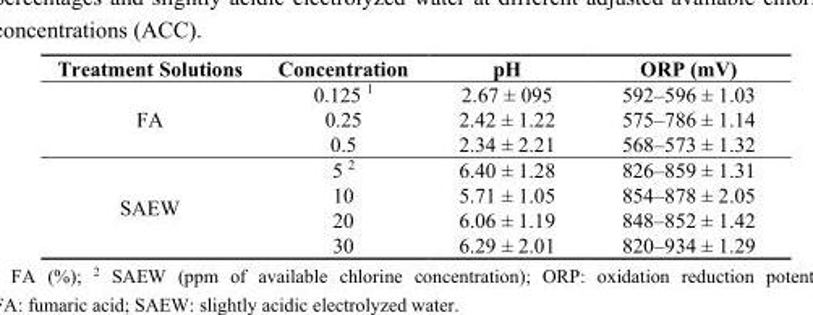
<table><thead><tr><td>Treatment Solutions</td><td>Concentration</td><td>pH</td><td>ORP (mV)</td></tr></thead><tbody><tr><td rowspan="3">FA</td><td>0.125 <sup>1</sup></td><td>2.67 ± 095</td><td>592–596 ± 1.03</td></tr><tr><td>0.25</td><td>2.42 ± 1.22</td><td>575–786 ± 1.14</td></tr><tr><td>0.5</td><td>2.34 ± 2.21</td><td>568–573 ± 1.32</td></tr><tr><td rowspan="4">SAEW</td><td>5 <sup>2</sup></td><td>6.40 ± 1.28</td><td>826–859 ± 1.31</td></tr><tr><td>10</td><td>5.71 ± 1.05</td><td>854–878 ± 2.05</td></tr><tr><td>20</td><td>6.06 ± 1.19</td><td>848–852 ± 1.42</td></tr><tr><td>30</td><td>6.29 ± 2.01</td><td>820–934 ± 1.29</td></tr></tbody></table>